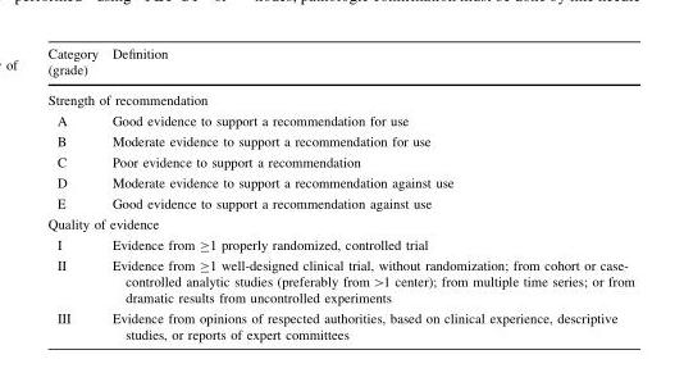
<table><thead><tr><td>Category (grade)</td><td>Definition</td></tr></thead><tbody><tr><td colspan="2">Strength of recommendation</td></tr><tr><td>A</td><td>Good evidence to support a recommendation for use</td></tr><tr><td>B</td><td>Moderate evidence to support a recommendation for use</td></tr><tr><td>C</td><td>Poor evidence to support a recommendation</td></tr><tr><td>D</td><td>Moderate evidence to support a recommendation against use</td></tr><tr><td>E</td><td>Good evidence to support a recommendation against use</td></tr><tr><td colspan="2">Quality of evidence</td></tr><tr><td>I</td><td>Evidence from ≥1 properly randomized, controlled trial</td></tr><tr><td>II</td><td>Evidence from ≥1 well-designed clinical trial, without randomization; from cohort or case- controlled analytic studies (preferably from &gt;1 center); from multiple time series; or from dramatic results from uncontrolled experiments</td></tr><tr><td>III</td><td>Evidence from opinions of respected authorities, based on clinical experience, descriptive studies, or reports of expert committees</td></tr></tbody></table>